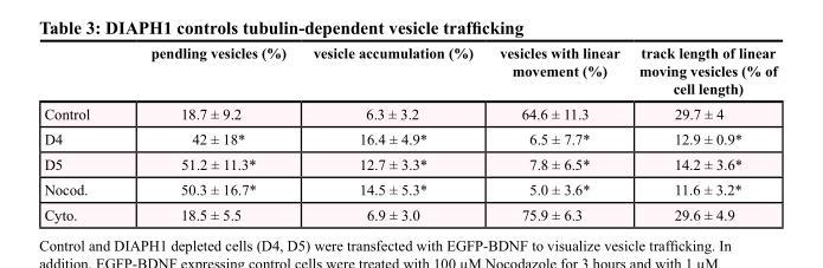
<table><thead><tr><td></td><td>pendling vesicles (%)</td><td>vesicle accumulation (%)</td><td>vesicles with linear movement (%)</td><td>track length of linear moving vesicles (% of cell length)</td></tr></thead><tbody><tr><td>Control</td><td>18.7 ± 9.2</td><td>6.3 ± 3.2</td><td>64.6 ± 11.3</td><td>29.7 ± 4</td></tr><tr><td>D4</td><td>42 ± 18*</td><td>16.4 ± 4.9*</td><td>6.5 ± 7.7*</td><td>12.9 ± 0.9*</td></tr><tr><td>D5</td><td>51.2 ± 11.3*</td><td>12.7 ± 3.3*</td><td>7.8 ± 6.5*</td><td>14.2 ± 3.6*</td></tr><tr><td>Nocod.</td><td>50.3 ± 16.7*</td><td>14.5 ± 5.3*</td><td>5.0 ± 3.6*</td><td>11.6 ± 3.2*</td></tr><tr><td>Cyto.</td><td>18.5 ± 5.5</td><td>6.9 ± 3.0</td><td>75.9 ± 6.3</td><td>29.6 ± 4.9</td></tr></tbody></table>